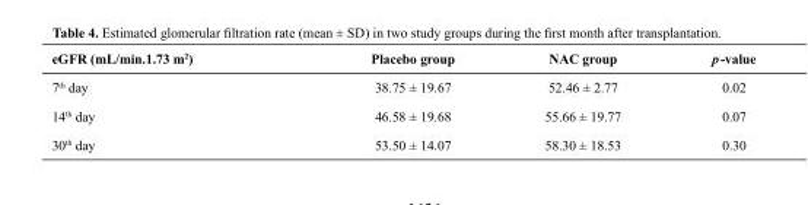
<table><thead><tr><td>eGFR (mL/min.1.73 m<sup>2</sup>)</td><td>Placebo group</td><td>NAC group</td><td>p-value</td></tr></thead><tbody><tr><td>7<sup>th</sup> day</td><td>38.75 ± 19.67</td><td>52.46 ± 2.77</td><td>0.02</td></tr><tr><td>14<sup>th</sup> day</td><td>46.58 ± 19.68</td><td>55.66 ± 19.77</td><td>0.07</td></tr><tr><td>30<sup>th</sup> day</td><td>53.50 ± 14.07</td><td>58.30 ± 18.53</td><td>0.30</td></tr></tbody></table>